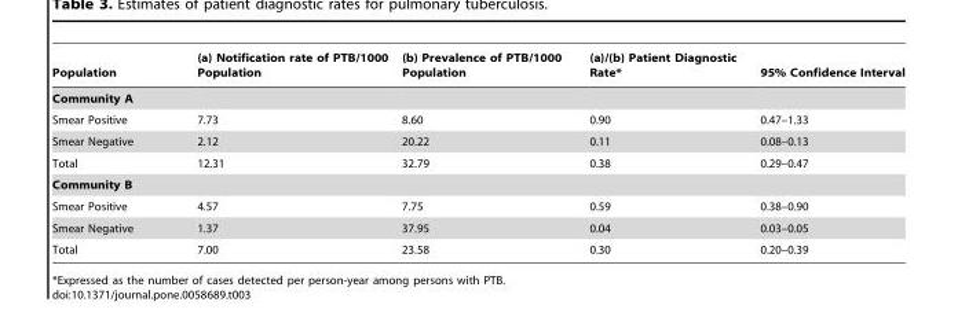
<table><thead><tr><td>Population</td><td>(a) Notification rate of PTB/1000 Population</td><td>(b) Prevalence of PTB/1000 Population</td><td>(a)/(b) Patient Diagnostic Rate*</td><td>95% Confidence Interval</td></tr></thead><tbody><tr><td colspan="5">Community A</td></tr><tr><td>Smear Positive</td><td>7.73</td><td>8.60</td><td>0.90</td><td>0.47–1.33</td></tr><tr><td>Smear Negative</td><td>2.12</td><td>20.22</td><td>0.11</td><td>0.08–0.13</td></tr><tr><td>Total</td><td>12.31</td><td>32.79</td><td>0.38</td><td>0.29–0.47</td></tr><tr><td colspan="5">Community B</td></tr><tr><td>Smear Positive</td><td>4.57</td><td>7.75</td><td>0.59</td><td>0.38–0.90</td></tr><tr><td>Smear Negative</td><td>1.37</td><td>37.95</td><td>0.04</td><td>0.03–0.05</td></tr><tr><td>Total</td><td>7.00</td><td>23.58</td><td>0.30</td><td>0.20–0.39</td></tr></tbody></table>